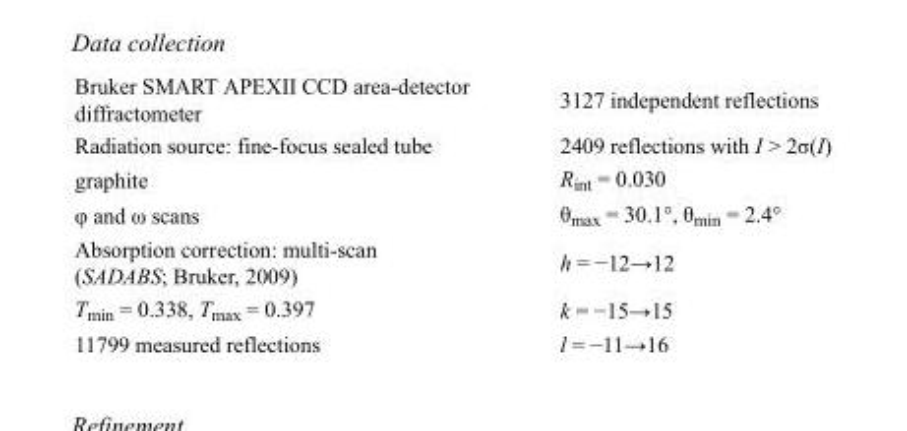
<table><tbody><tr><td>Bruker SMART APEXII CCD area-detector diffractometer</td><td>3127 independent reflections</td></tr><tr><td>Radiation source: fine-focus sealed tube</td><td>2409 reflections with I &gt; 2σ(I)</td></tr><tr><td>graphite</td><td>R<sub>int</sub> = 0.030</td></tr><tr><td>φ and ω scans</td><td>θ<sub>max</sub> = 30.1°, θ<sub>min</sub> = 2.4°</td></tr><tr><td>Absorption correction: multi-scan (SADABS; Bruker, 2009)</td><td>h = −12→12</td></tr><tr><td>T<sub>min</sub> = 0.338, T<sub>max</sub> = 0.397</td><td>k = −15→15</td></tr><tr><td>11799 measured reflections</td><td>l = −11→16</td></tr></tbody></table>